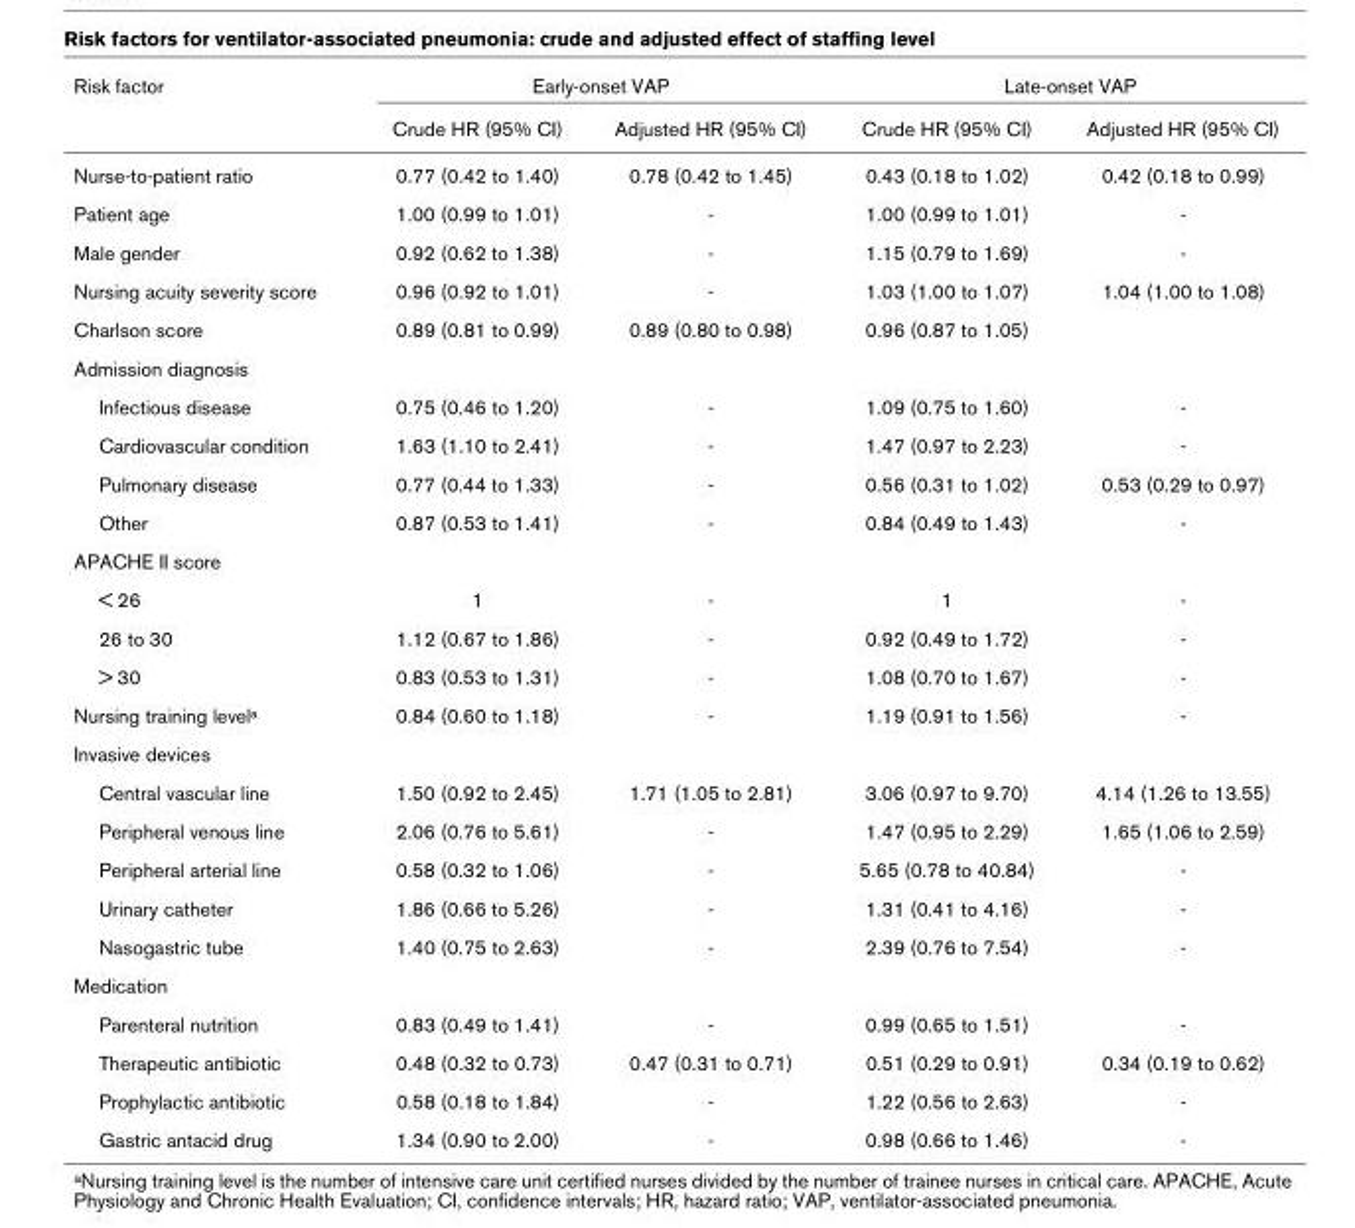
<table><thead><tr><td rowspan="2">Risk factor</td><td colspan="2">Early-onset VAP</td><td colspan="2">Late-onset VAP</td></tr><tr><td>Crude HR (95% CI)</td><td>Adjusted HR (95% CI)</td><td>Crude HR (95% CI)</td><td>Adjusted HR (95% CI)</td></tr></thead><tbody><tr><td>Nurse-to-patient ratio</td><td>0.77 (0.42 to 1.40)</td><td>0.78 (0.42 to 1.45)</td><td>0.43 (0.18 to 1.02)</td><td>0.42 (0.18 to 0.99)</td></tr><tr><td>Patient age</td><td>1.00 (0.99 to 1.01)</td><td>-</td><td>1.00 (0.99 to 1.01)</td><td>-</td></tr><tr><td>Male gender</td><td>0.92 (0.62 to 1.38)</td><td>-</td><td>1.15 (0.79 to 1.69)</td><td>-</td></tr><tr><td>Nursing acuity severity score</td><td>0.96 (0.92 to 1.01)</td><td>-</td><td>1.03 (1.00 to 1.07)</td><td>1.04 (1.00 to 1.08)</td></tr><tr><td>Charlson score</td><td>0.89 (0.81 to 0.99)</td><td>0.89 (0.80 to 0.98)</td><td>0.96 (0.87 to 1.05)</td><td></td></tr><tr><td colspan="5">Admission diagnosis</td></tr><tr><td>Infectious disease</td><td>0.75 (0.46 to 1.20)</td><td>-</td><td>1.09 (0.75 to 1.60)</td><td>-</td></tr><tr><td>Cardiovascular condition</td><td>1.63 (1.10 to 2.41)</td><td>-</td><td>1.47 (0.97 to 2.23)</td><td>-</td></tr><tr><td>Pulmonary disease</td><td>0.77 (0.44 to 1.33)</td><td>-</td><td>0.56 (0.31 to 1.02)</td><td>0.53 (0.29 to 0.97)</td></tr><tr><td>Other</td><td>0.87 (0.53 to 1.41)</td><td>-</td><td>0.84 (0.49 to 1.43)</td><td>-</td></tr><tr><td colspan="5">APACHE II score</td></tr><tr><td>&lt; 26</td><td>1</td><td>-</td><td>1</td><td>-</td></tr><tr><td>26 to 30</td><td>1.12 (0.67 to 1.86)</td><td>-</td><td>0.92 (0.49 to 1.72)</td><td>-</td></tr><tr><td>&gt; 30</td><td>0.83 (0.53 to 1.31)</td><td>-</td><td>1.08 (0.70 to 1.67)</td><td>-</td></tr><tr><td>Nursing training level<sup>a</sup></td><td>0.84 (0.60 to 1.18)</td><td>-</td><td>1.19 (0.91 to 1.56)</td><td>-</td></tr><tr><td colspan="5">Invasive devices</td></tr><tr><td>Central vascular line</td><td>1.50 (0.92 to 2.45)</td><td>1.71 (1.05 to 2.81)</td><td>3.06 (0.97 to 9.70)</td><td>4.14 (1.26 to 13.55)</td></tr><tr><td>Peripheral venous line</td><td>2.06 (0.76 to 5.61)</td><td>-</td><td>1.47 (0.95 to 2.29)</td><td>1.65 (1.06 to 2.59)</td></tr><tr><td>Peripheral arterial line</td><td>0.58 (0.32 to 1.06)</td><td>-</td><td>5.65 (0.78 to 40.84)</td><td>-</td></tr><tr><td>Urinary catheter</td><td>1.86 (0.66 to 5.26)</td><td>-</td><td>1.31 (0.41 to 4.16)</td><td>-</td></tr><tr><td>Nasogastric tube</td><td>1.40 (0.75 to 2.63)</td><td>-</td><td>2.39 (0.76 to 7.54)</td><td>-</td></tr><tr><td colspan="5">Medication</td></tr><tr><td>Parenteral nutrition</td><td>0.83 (0.49 to 1.41)</td><td>-</td><td>0.99 (0.65 to 1.51)</td><td>-</td></tr><tr><td>Therapeutic antibiotic</td><td>0.48 (0.32 to 0.73)</td><td>0.47 (0.31 to 0.71)</td><td>0.51 (0.29 to 0.91)</td><td>0.34 (0.19 to 0.62)</td></tr><tr><td>Prophylactic antibiotic</td><td>0.58 (0.18 to 1.84)</td><td>-</td><td>1.22 (0.56 to 2.63)</td><td>-</td></tr><tr><td>Gastric antacid drug</td><td>1.34 (0.90 to 2.00)</td><td>-</td><td>0.98 (0.66 to 1.46)</td><td>-</td></tr></tbody></table>